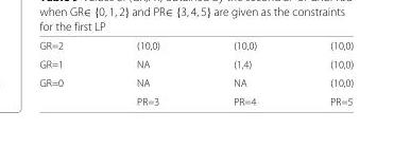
<table><tbody><tr><td>GR=2</td><td>(10,0)</td><td>(10,0)</td><td>(10,0)</td></tr><tr><td>GR=1</td><td>NA</td><td>(1,4)</td><td>(10,0)</td></tr><tr><td rowspan="2">GR=0</td><td>NA</td><td>NA</td><td>(10,0)</td></tr><tr><td>PR=3</td><td>PR=4</td><td>PR=5</td></tr></tbody></table>